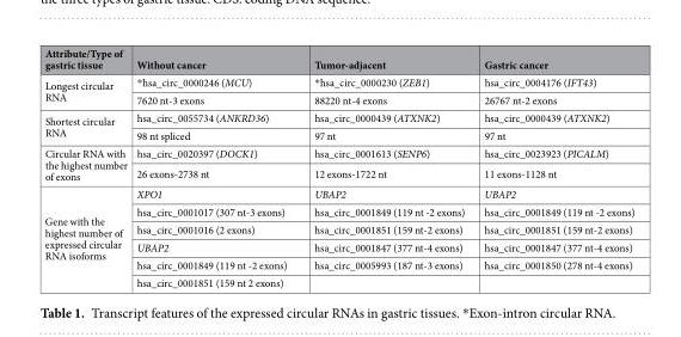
<table><thead><tr><td>Attribute/Type of gastric tissue</td><td>Without cancer</td><td>Tumor-adjacent</td><td>Gastric cancer</td></tr></thead><tbody><tr><td rowspan="2">Longest circular RNA</td><td>*hsa_circ_0000246 (MCU)</td><td>*hsa_circ_0000230 (ZEB1)</td><td>hsa_circ_0004176 (IFT43)</td></tr><tr><td>7620 nt-3 exons</td><td>88220 nt-4 exons</td><td>26767 nt-2 exons</td></tr><tr><td rowspan="2">Shortest circular RNA</td><td>hsa_circ_0055734 (ANKRD36)</td><td>hsa_circ_0000439 (ATXNK2)</td><td>hsa_circ_0000439 (ATXNK2)</td></tr><tr><td>98 nt spliced</td><td>97 nt</td><td>97 nt</td></tr><tr><td rowspan="2">Circular RNA with the highest number of exons</td><td>hsa_circ_0020397 (DOCK1)</td><td>hsa_circ_0001613 (SENP6)</td><td>hsa_circ_0023923 (PICALM)</td></tr><tr><td>26 exons-2738 nt</td><td>12 exons-1722 nt</td><td>11 exons-1128 nt</td></tr><tr><td rowspan="6">Gene with the highest number of expressed circular RNA isoforms</td><td>XPO1</td><td>UBAP2</td><td>UBAP2</td></tr><tr><td>hsa_circ_0001017 (307 nt-3 exons)</td><td>hsa_circ_0001849 (119 nt -2 exons)</td><td>hsa_circ_0001849 (119 nt -2 exons)</td></tr><tr><td>hsa_circ_0001016 (2 exons)</td><td>hsa_circ_0001851 (159 nt-2 exons)</td><td>hsa_circ_0001851 (159 nt-2 exons)</td></tr><tr><td>UBAP2</td><td>hsa_circ_0001847 (377 nt-4 exons)</td><td>hsa_circ_0001847 (377 nt-4 exons)</td></tr><tr><td>hsa_circ_0001849 (119 nt -2 exons)</td><td>hsa_circ_0005993 (187 nt-3 exons)</td><td>hsa_circ_0001850 (278 nt-4 exons)</td></tr><tr><td>hsa_circ_0001851 (159 nt 2 exons)</td><td></td><td></td></tr></tbody></table>